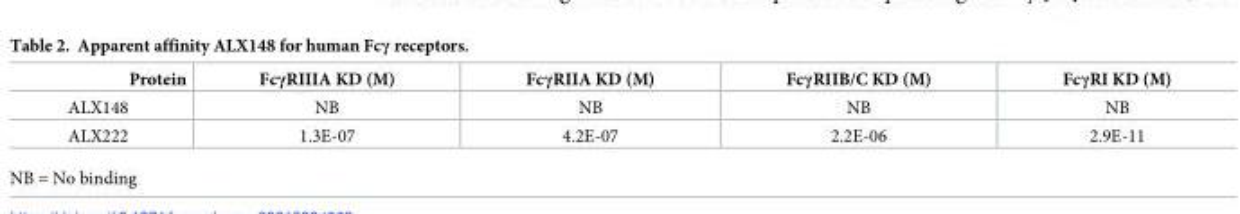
<table><thead><tr><td>Protein</td><td>FcγRIIIA KD (M)</td><td>FcγRIIA KD (M)</td><td>FcγRIIB/C KD (M)</td><td>FcγRI KD (M)</td></tr></thead><tbody><tr><td>ALX148</td><td>NB</td><td>NB</td><td>NB</td><td>NB</td></tr><tr><td>ALX222</td><td>1.3E-07</td><td>4.2E-07</td><td>2.2E-06</td><td>2.9E-11</td></tr></tbody></table>